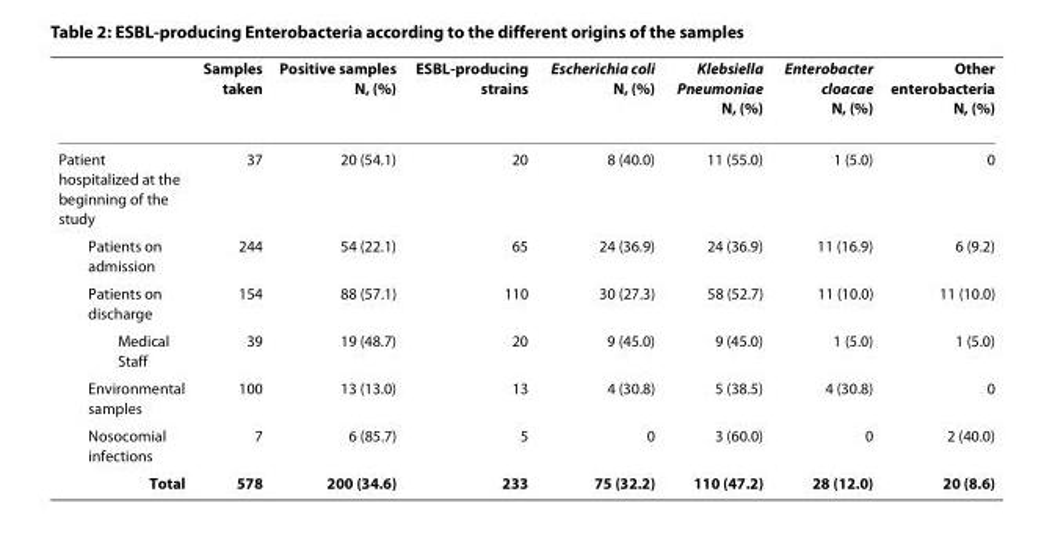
<table><thead><tr><td></td><td>Samples taken</td><td>Positive samples N, (%)</td><td>ESBL-producing strains</td><td>Escherichia coli N, (%)</td><td>Klebsiella Pneumoniae N, (%)</td><td>Enterobacter cloacae N, (%)</td><td>Other enterobacteria N, (%)</td></tr></thead><tbody><tr><td>Patient hospitalized at the beginning of the study</td><td>37</td><td>20 (54.1)</td><td>20</td><td>8 (40.0)</td><td>11 (55.0)</td><td>1 (5.0)</td><td>0</td></tr><tr><td>Patients on admission</td><td>244</td><td>54 (22.1)</td><td>65</td><td>24 (36.9)</td><td>24 (36.9)</td><td>11 (16.9)</td><td>6 (9.2)</td></tr><tr><td>Patients on discharge</td><td>154</td><td>88 (57.1)</td><td>110</td><td>30 (27.3)</td><td>58 (52.7)</td><td>11 (10.0)</td><td>11 (10.0)</td></tr><tr><td>Medical Staff</td><td>39</td><td>19 (48.7)</td><td>20</td><td>9 (45.0)</td><td>9 (45.0)</td><td>1 (5.0)</td><td>1 (5.0)</td></tr><tr><td>Environmental samples</td><td>100</td><td>13 (13.0)</td><td>13</td><td>4 (30.8)</td><td>5 (38.5)</td><td>4 (30.8)</td><td>0</td></tr><tr><td>Nosocomial infections</td><td>7</td><td>6 (85.7)</td><td>5</td><td>0</td><td>3 (60.0)</td><td>0</td><td>2 (40.0)</td></tr><tr><td>Total</td><td>578</td><td>200 (34.6)</td><td>233</td><td>75 (32.2)</td><td>110 (47.2)</td><td>28 (12.0)</td><td>20 (8.6)</td></tr></tbody></table>